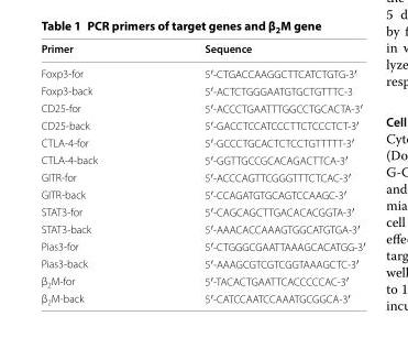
<table><thead><tr><td>Primer</td><td>Sequence</td></tr></thead><tbody><tr><td>Foxp3-for</td><td>5′-CTG ACC AAG GCT TCA TCT GTG-3′</td></tr><tr><td>Foxp3-back</td><td>5′-ACT CTG GGA ATG TGC TGT TTC-3</td></tr><tr><td>CD25-for</td><td>5′-ACC CTG AAT TTG GCC TGC ACTA-3′</td></tr><tr><td>CD25-back</td><td>5′-GAC CTC CAT CCC TTC TCC CTCT-3′</td></tr><tr><td>CTLA-4-for</td><td>5′-GCC CTG CAC TCT CCT GTT TTT-3′</td></tr><tr><td>CTLA-4-back</td><td>5′-GGT TGC CGC ACA GAC TTC A-3′</td></tr><tr><td>GITR-for</td><td>5′-ACC CAG TTC GGG TTT CTC AC-3′</td></tr><tr><td>GITR-back</td><td>5′-CCA GAT GTG CAG TCC AAG C-3′</td></tr><tr><td>STAT3-for</td><td>5′-CAG CAG CTT GAC ACA CGG TA-3′</td></tr><tr><td>STAT3-back</td><td>5′-AAA CAC CAA AGT GGC ATG TGA-3′</td></tr><tr><td>Pias3-for</td><td>5′-CTG GGC GAA TTA AAG CAC ATGG-3′</td></tr><tr><td>Pias3-back</td><td>5′-AAA GCG TCG TCG GTA AAG CTC-3′</td></tr><tr><td>β<sub>2</sub>M-for</td><td>5′-TAC ACT GAA TTC ACC CCC AC-3′</td></tr><tr><td>β<sub>2</sub>M-back</td><td>5′-CAT CCA ATC CAA ATG CGG CA-3′</td></tr></tbody></table>